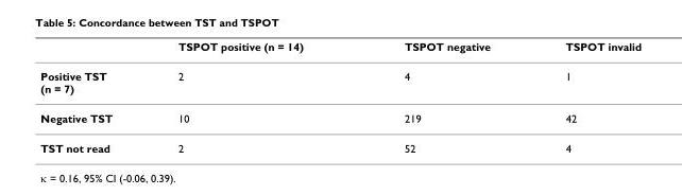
<table><thead><tr><td></td><td>TSPOT positive (n = 14)</td><td>TSPOT negative</td><td>TSPOT invalid</td></tr></thead><tbody><tr><td>Positive TST (n = 7)</td><td>2</td><td>4</td><td>1</td></tr><tr><td>Negative TST</td><td>10</td><td>219</td><td>42</td></tr><tr><td>TST not read</td><td>2</td><td>52</td><td>4</td></tr></tbody></table>